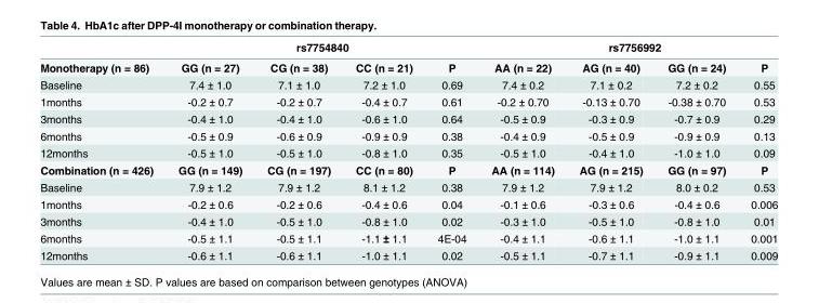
<table><thead><tr><td rowspan="2">Monotherapy (n = 86)</td><td colspan="4">rs7754840</td><td colspan="4">rs7756992</td></tr><tr><td>GG (n = 27)</td><td>CG (n = 38)</td><td>CC (n = 21)</td><td>P</td><td>AA (n = 22)</td><td>AG (n = 40)</td><td>GG (n = 24)</td><td>P</td></tr></thead><tbody><tr><td>Baseline</td><td>7.4 ± 1.0</td><td>7.1 ± 1.0</td><td>7.2 ± 1.0</td><td>0.69</td><td>7.4 ± 0.2</td><td>7.1 ± 0.2</td><td>7.2 ± 0.2</td><td>0.55</td></tr><tr><td>1months</td><td>-0.2 ± 0.7</td><td>-0.2 ± 0.7</td><td>-0.4 ± 0.7</td><td>0.61</td><td>-0.2 ± 0.70</td><td>-0.13 ± 0.70</td><td>-0.38 ± 0.70</td><td>0.53</td></tr><tr><td>3months</td><td>-0.4 ± 1.0</td><td>-0.4 ± 1.0</td><td>-0.6 ± 1.0</td><td>0.64</td><td>-0.5 ± 0.9</td><td>-0.3 ± 0.9</td><td>-0.7 ± 0.9</td><td>0.29</td></tr><tr><td>6months</td><td>-0.5 ± 0.9</td><td>-0.6 ± 0.9</td><td>-0.9 ± 0.9</td><td>0.38</td><td>-0.4 ± 0.9</td><td>-0.5 ± 0.9</td><td>-0.9 ± 0.9</td><td>0.13</td></tr><tr><td>12months</td><td>-0.5 ± 1.0</td><td>-0.5 ± 1.0</td><td>-0.8 ± 1.0</td><td>0.35</td><td>-0.5 ± 1.0</td><td>-0.4 ± 1.0</td><td>-1.0 ± 1.0</td><td>0.09</td></tr><tr><td>Combination (n = 426)</td><td>GG (n = 149)</td><td>CG (n = 197)</td><td>CC (n = 80)</td><td>P</td><td>AA (n = 114)</td><td>AG (n = 215)</td><td>GG (n = 97)</td><td>P</td></tr><tr><td>Baseline</td><td>7.9 ± 1.2</td><td>7.9 ± 1.2</td><td>8.1 ± 1.2</td><td>0.38</td><td>7.9 ± 1.2</td><td>7.9 ± 1.2</td><td>8.0 ± 0.2</td><td>0.53</td></tr><tr><td>1months</td><td>-0.2 ± 0.6</td><td>-0.2 ± 0.6</td><td>-0.4 ± 0.6</td><td>0.04</td><td>-0.1 ± 0.6</td><td>-0.3 ± 0.6</td><td>-0.4 ± 0.6</td><td>0.006</td></tr><tr><td>3months</td><td>-0.4 ± 1.0</td><td>-0.5 ± 1.0</td><td>-0.8 ± 1.0</td><td>0.02</td><td>-0.3 ± 1.0</td><td>-0.5 ± 1.0</td><td>-0.8 ± 1.0</td><td>0.01</td></tr><tr><td>6months</td><td>-0.5 ± 1.1</td><td>-0.5 ± 1.1</td><td>-1.1 ± 1.1</td><td>4E-04</td><td>-0.4 ± 1.1</td><td>-0.6 ± 1.1</td><td>-1.0 ± 1.1</td><td>0.001</td></tr><tr><td>12months</td><td>-0.6 ± 1.1</td><td>-0.6 ± 1.1</td><td>-1.0 ± 1.1</td><td>0.02</td><td>-0.5 ± 1.1</td><td>-0.7 ± 1.1</td><td>-0.9 ± 1.1</td><td>0.009</td></tr></tbody></table>